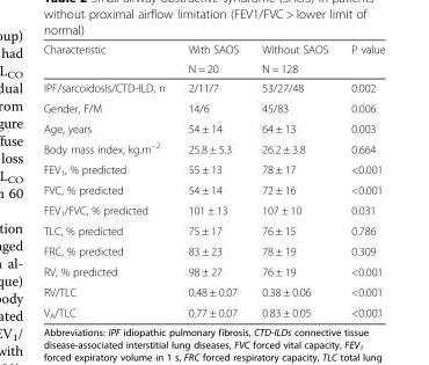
<table><thead><tr><td rowspan="2">Characteristic</td><td rowspan="2">With SAOS N = 20</td><td rowspan="2">Without SAOS N = 128</td><td rowspan="2">P value</td></tr><tr></tr></thead><tbody><tr><td>IPF/sarcoidosis/CTD-ILD, n</td><td>2/11/7</td><td>53/27/48</td><td>0.002</td></tr><tr><td>Gender, F/M</td><td>14/6</td><td>45/83</td><td>0.006</td></tr><tr><td>Age, years</td><td>54 ± 14</td><td>64 ± 13</td><td>0.003</td></tr><tr><td>Body mass index, kg.m<sup>−2</sup></td><td>25.8 ± 5.3</td><td>26.2 ± 3.8</td><td>0.664</td></tr><tr><td>FEV<sub>1</sub>, % predicted</td><td>55 ± 13</td><td>78 ± 17</td><td>&lt;0.001</td></tr><tr><td>FVC, % predicted</td><td>54 ± 14</td><td>72 ± 16</td><td>&lt;0.001</td></tr><tr><td>FEV<sub>1</sub>/FVC, % predicted</td><td>101 ± 13</td><td>107 ± 10</td><td>0.031</td></tr><tr><td>TLC, % predicted</td><td>75 ± 17</td><td>76 ± 15</td><td>0.786</td></tr><tr><td>FRC, % predicted</td><td>83 ± 23</td><td>78 ± 19</td><td>0.309</td></tr><tr><td>RV, % predicted</td><td>98 ± 27</td><td>76 ± 19</td><td>&lt;0.001</td></tr><tr><td>RV/TLC</td><td>0.48 ± 0.07</td><td>0.38 ± 0.06</td><td>&lt;0.001</td></tr><tr><td>V<sub>A</sub>/TLC</td><td>0.77 ± 0.07</td><td>0.83 ± 0.05</td><td>&lt;0.001</td></tr></tbody></table>